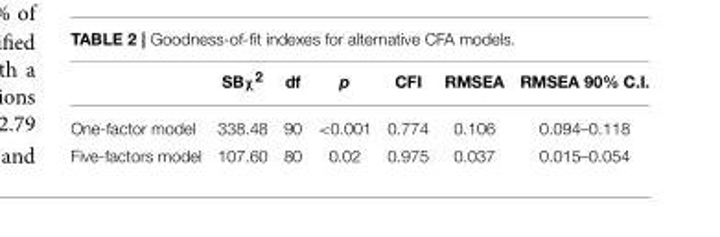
<table><thead><tr><td></td><td>SBχ<sup>2</sup></td><td>df</td><td>p</td><td>CFI</td><td>RMSEA</td><td>RMSEA 90% C.I.</td></tr></thead><tbody><tr><td>One-factor model</td><td>338.48</td><td>90</td><td>&lt;0.001</td><td>0.774</td><td>0.106</td><td>0.094–0.118</td></tr><tr><td>Five-factors model</td><td>107.60</td><td>80</td><td>0.02</td><td>0.975</td><td>0.037</td><td>0.015–0.054</td></tr></tbody></table>